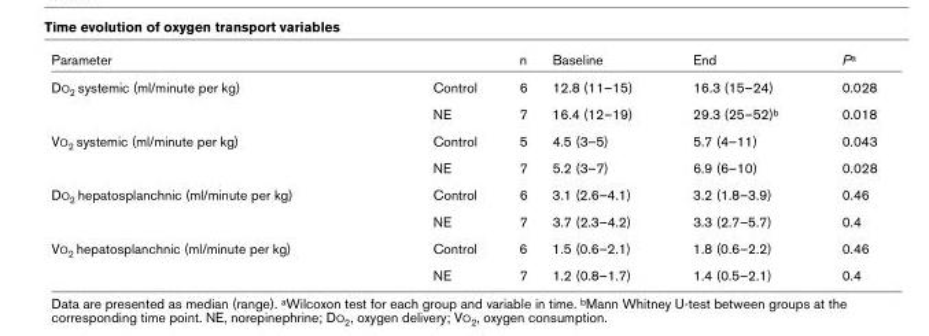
<table><thead><tr><td>Parameter</td><td></td><td>n</td><td>Baseline</td><td>End</td><td>P<sup>a</sup></td></tr></thead><tbody><tr><td rowspan="2">DO<sub>2</sub> systemic (ml/minute per kg)</td><td>Control</td><td>6</td><td>12.8 (11–15)</td><td>16.3 (15–24)</td><td>0.028</td></tr><tr><td>NE</td><td>7</td><td>16.4 (12–19)</td><td>29.3 (25–52)<sup>b</sup></td><td>0.018</td></tr><tr><td rowspan="2">VO<sub>2</sub> systemic (ml/minute per kg)</td><td>Control</td><td>5</td><td>4.5 (3–5)</td><td>5.7 (4–11)</td><td>0.043</td></tr><tr><td>NE</td><td>7</td><td>5.2 (3–7)</td><td>6.9 (6–10)</td><td>0.028</td></tr><tr><td rowspan="2">DO<sub>2</sub> hepatosplanchnic (ml/minute per kg)</td><td>Control</td><td>6</td><td>3.1 (2.6–4.1)</td><td>3.2 (1.8–3.9)</td><td>0.46</td></tr><tr><td>NE</td><td>7</td><td>3.7 (2.3–4.2)</td><td>3.3 (2.7–5.7)</td><td>0.4</td></tr><tr><td rowspan="2">VO<sub>2</sub> hepatosplanchnic (ml/minute per kg)</td><td>Control</td><td>6</td><td>1.5 (0.6–2.1)</td><td>1.8 (0.6–2.2)</td><td>0.46</td></tr><tr><td>NE</td><td>7</td><td>1.2 (0.8–1.7)</td><td>1.4 (0.5–2.1)</td><td>0.4</td></tr></tbody></table>